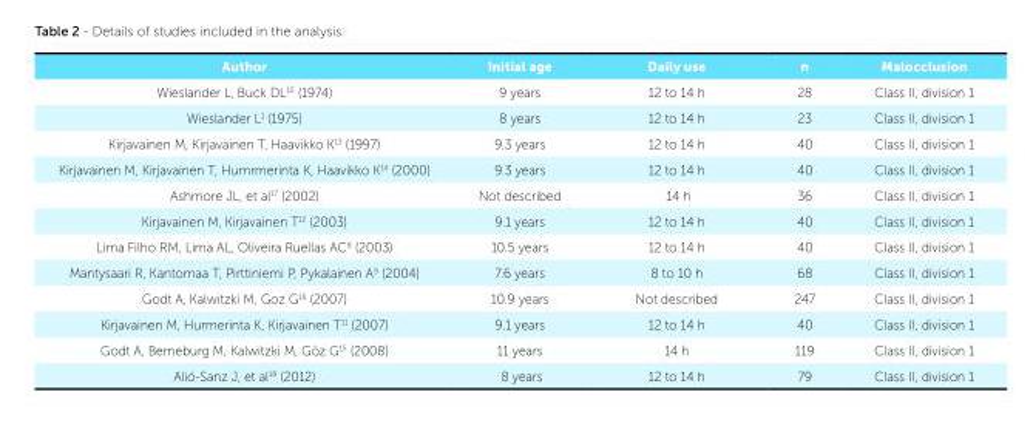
<table><thead><tr><td>Author</td><td>Initial age</td><td>Daily use</td><td>n</td><td>Malocclusion</td></tr></thead><tbody><tr><td>Wieslander L, Buck DL<sup>10</sup> (1974)</td><td>9 years</td><td>12 to 14 h</td><td>28</td><td>Class II, division 1</td></tr><tr><td>Wieslander L<sup>1</sup> (1975)</td><td>8 years</td><td>12 to 14 h</td><td>23</td><td>Class II, division 1</td></tr><tr><td>Kirjavainen M, Kirjavainen T, Haavikko K<sup>13</sup> (1997)</td><td>9.3 years</td><td>12 to 14 h</td><td>40</td><td>Class II, division 1</td></tr><tr><td>Kirjavainen M, Kirjavainen T, Humrmerinta K, Haavikko K<sup>14</sup> (2000)</td><td>9.3 years</td><td>12 to 14 h</td><td>40</td><td>Class II, division 1</td></tr><tr><td>Ashmore JL, et al<sup>17</sup> (2002)</td><td>Not described</td><td>14 h</td><td>36</td><td>Class II, division 1</td></tr><tr><td>Kirjavainen M, Kirjavainen T<sup>12</sup> (2003)</td><td>9.1 years</td><td>12 to 14 h</td><td>40</td><td>Class II, division 1</td></tr><tr><td>Lima Filho RM, Lima AL, Oliveira Ruellas AC<sup>8</sup> (2003)</td><td>10.5 years</td><td>12 to 14 h</td><td>40</td><td>Class II, division 1</td></tr><tr><td>Mantysaari R, Kantomaa T, Pirttiniemi P, Pykalainen A<sup>9</sup> (2004)</td><td>7.6 years</td><td>8 to 10 h</td><td>68</td><td>Class II, division 1</td></tr><tr><td>Godt A, Kalwitzki M, Goz G<sup>16</sup> (2007)</td><td>10.9 years</td><td>Not described</td><td>247</td><td>Class II, division 1</td></tr><tr><td>Kirjavainen M, Hurmerinta K, Kirjavainen T<sup>11</sup> (2007)</td><td>9.1 years</td><td>12 to 14 h</td><td>40</td><td>Class II, division 1</td></tr><tr><td>Godt A, Berneburg M, Kalwitzki M, Göz G<sup>15</sup> (2008)</td><td>11 years</td><td>14 h</td><td>119</td><td>Class II, division 1</td></tr><tr><td>Alió-Sanz J, et al<sup>18</sup> (2012)</td><td>8 years</td><td>12 to 14 h</td><td>79</td><td>Class II, division 1</td></tr></tbody></table>